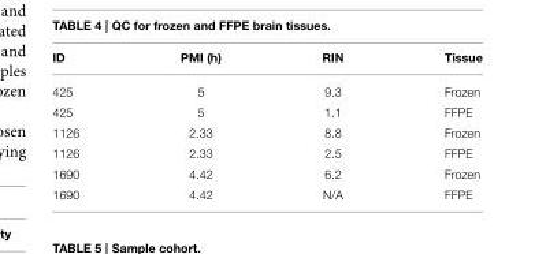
<table><thead><tr><td>ID</td><td>PMI (h)</td><td>RIN</td><td>Tissue</td></tr></thead><tbody><tr><td>425</td><td>5</td><td>9.3</td><td>Frozen</td></tr><tr><td>425</td><td>5</td><td>1.1</td><td>FFPE</td></tr><tr><td>1126</td><td>2.33</td><td>8.8</td><td>Frozen</td></tr><tr><td>1126</td><td>2.33</td><td>2.5</td><td>FFPE</td></tr><tr><td>1690</td><td>4.42</td><td>6.2</td><td>Frozen</td></tr><tr><td>1690</td><td>4.42</td><td>N/A</td><td>FFPE</td></tr></tbody></table>